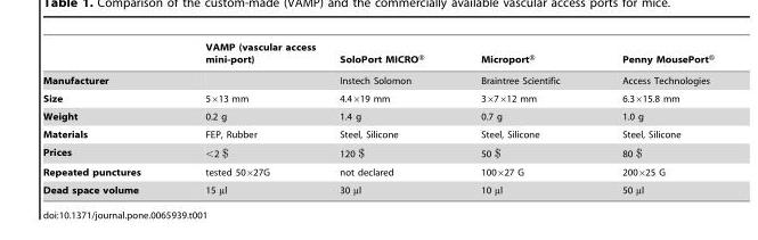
<table><thead><tr><td></td><td>VAMP (vascular access mini-port)</td><td>SoloPort MICRO®</td><td>Microport®</td><td>Penny MousePort®</td></tr></thead><tbody><tr><td>Manufacturer</td><td></td><td>Instech Solomon</td><td>Braintree Scientific</td><td>Access Technologies</td></tr><tr><td>Size</td><td>5×13 mm</td><td>4.4×19 mm</td><td>3×7×12 mm</td><td>6.3×15.8 mm</td></tr><tr><td>Weight</td><td>0.2 g</td><td>1.4 g</td><td>0.7 g</td><td>1.0 g</td></tr><tr><td>Materials</td><td>FEP, Rubber</td><td>Steel, Silicone</td><td>Steel, Silicone</td><td>Steel, Silicone</td></tr><tr><td>Prices</td><td>&lt;2 $</td><td>120 $</td><td>50 $</td><td>80 $</td></tr><tr><td>Repeated punctures</td><td>tested 50×27G</td><td>not declared</td><td>100×27 G</td><td>200×25 G</td></tr><tr><td>Dead space volume</td><td>15 µl</td><td>30 µl</td><td>10 µl</td><td>50 µl</td></tr></tbody></table>